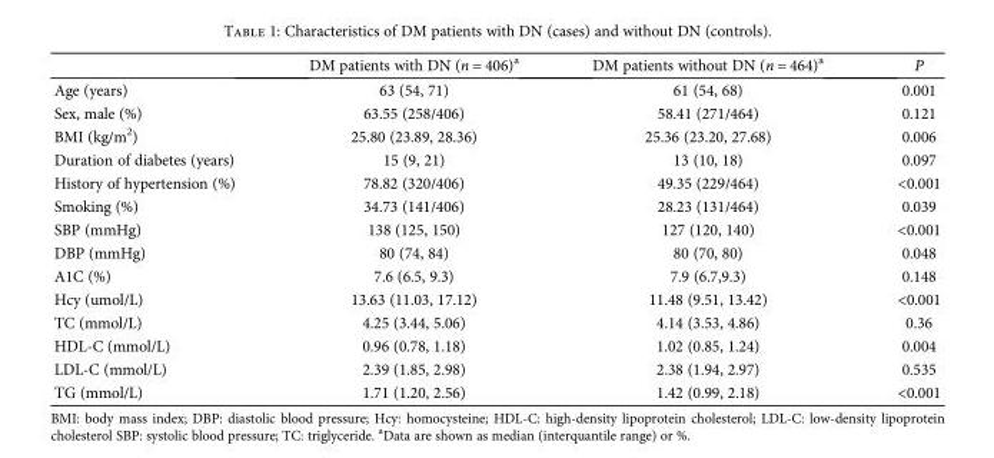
<table><thead><tr><td></td><td>DM patients with DN (n = 406)<sup>a</sup></td><td>DM patients without DN (n = 464)<sup>a</sup></td><td>P</td></tr></thead><tbody><tr><td>Age (years)</td><td>63 (54, 71)</td><td>61 (54, 68)</td><td>0.001</td></tr><tr><td>Sex, male (%)</td><td>63.55 (258/406)</td><td>58.41 (271/464)</td><td>0.121</td></tr><tr><td>BMI (kg/m<sup>2</sup>)</td><td>25.80 (23.89, 28.36)</td><td>25.36 (23.20, 27.68)</td><td>0.006</td></tr><tr><td>Duration of diabetes (years)</td><td>15 (9, 21)</td><td>13 (10, 18)</td><td>0.097</td></tr><tr><td>History of hypertension (%)</td><td>78.82 (320/406)</td><td>49.35 (229/464)</td><td>&lt;0.001</td></tr><tr><td>Smoking (%)</td><td>34.73 (141/406)</td><td>28.23 (131/464)</td><td>0.039</td></tr><tr><td>SBP (mmHg)</td><td>138 (125, 150)</td><td>127 (120, 140)</td><td>&lt;0.001</td></tr><tr><td>DBP (mmHg)</td><td>80 (74, 84)</td><td>80 (70, 80)</td><td>0.048</td></tr><tr><td>A1C (%)</td><td>7.6 (6.5, 9.3)</td><td>7.9 (6.7,9.3)</td><td>0.148</td></tr><tr><td>Hcy (umol/L)</td><td>13.63 (11.03, 17.12)</td><td>11.48 (9.51, 13.42)</td><td>&lt;0.001</td></tr><tr><td>TC (mmol/L)</td><td>4.25 (3.44, 5.06)</td><td>4.14 (3.53, 4.86)</td><td>0.36</td></tr><tr><td>HDL-C (mmol/L)</td><td>0.96 (0.78, 1.18)</td><td>1.02 (0.85, 1.24)</td><td>0.004</td></tr><tr><td>LDL-C (mmol/L)</td><td>2.39 (1.85, 2.98)</td><td>2.38 (1.94, 2.97)</td><td>0.535</td></tr><tr><td>TG (mmol/L)</td><td>1.71 (1.20, 2.56)</td><td>1.42 (0.99, 2.18)</td><td>&lt;0.001</td></tr></tbody></table>